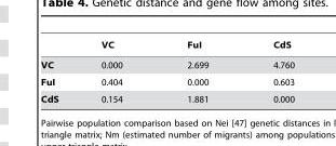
<table><thead><tr><td></td><td>VC</td><td>FuI</td><td>CdS</td></tr></thead><tbody><tr><td>VC</td><td>0.000</td><td>2.699</td><td>4.760</td></tr><tr><td>FuI</td><td>0.404</td><td>0.000</td><td>0.603</td></tr><tr><td>CdS</td><td>0.154</td><td>1.881</td><td>0.000</td></tr></tbody></table>